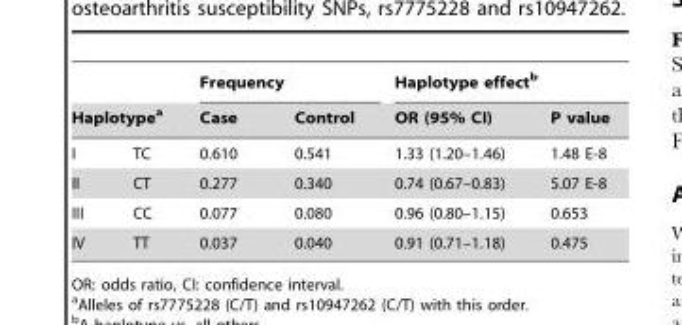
<table><thead><tr><td></td><td></td><td colspan="2">Frequency</td><td colspan="2">Haplotype effect<sup>b</sup></td></tr><tr><td colspan="2">Haplotype<sup>a</sup></td><td>Case</td><td>Control</td><td>OR (95% CI)</td><td>P value</td></tr></thead><tbody><tr><td>I</td><td>TC</td><td>0.610</td><td>0.541</td><td>1.33 (1.20–1.46)</td><td>1.48 E-8</td></tr><tr><td>II</td><td>CT</td><td>0.277</td><td>0.340</td><td>0.74 (0.67–0.83)</td><td>5.07 E-8</td></tr><tr><td>III</td><td>CC</td><td>0.077</td><td>0.080</td><td>0.96 (0.80–1.15)</td><td>0.653</td></tr><tr><td>IV</td><td>TT</td><td>0.037</td><td>0.040</td><td>0.91 (0.71–1.18)</td><td>0.475</td></tr></tbody></table>